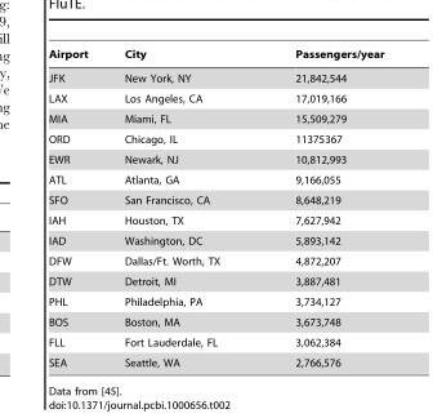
<table><thead><tr><td>Airport</td><td>City</td><td>Passengers/year</td></tr></thead><tbody><tr><td>JFK</td><td>New York, NY</td><td>21,842,544</td></tr><tr><td>LAX</td><td>Los Angeles, CA</td><td>17,019,166</td></tr><tr><td>MIA</td><td>Miami, FL</td><td>15,509,279</td></tr><tr><td>ORD</td><td>Chicago, IL</td><td>11375367</td></tr><tr><td>EWR</td><td>Newark, NJ</td><td>10,812,993</td></tr><tr><td>ATL</td><td>Atlanta, GA</td><td>9,166,055</td></tr><tr><td>SFO</td><td>San Francisco, CA</td><td>8,648,219</td></tr><tr><td>IAH</td><td>Houston, TX</td><td>7,627,942</td></tr><tr><td>IAD</td><td>Washington, DC</td><td>5,893,142</td></tr><tr><td>DFW</td><td>Dallas/Ft. Worth, TX</td><td>4,872,207</td></tr><tr><td>DTW</td><td>Detroit, MI</td><td>3,887,481</td></tr><tr><td>PHL</td><td>Philadelphia, PA</td><td>3,734,127</td></tr><tr><td>BOS</td><td>Boston, MA</td><td>3,673,748</td></tr><tr><td>FLL</td><td>Fort Lauderdale, FL</td><td>3,062,384</td></tr><tr><td>SEA</td><td>Seattle, WA</td><td>2,766,576</td></tr></tbody></table>